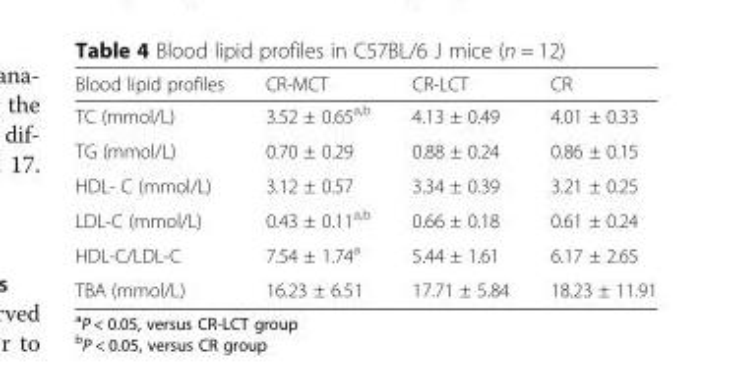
<table><thead><tr><td>Blood lipid profiles</td><td>CR-MCT</td><td>CR-LCT</td><td>CR</td></tr></thead><tbody><tr><td>TC (mmol/L)</td><td>3.52 ± 0.65<sup>a,b</sup></td><td>4.13 ± 0.49</td><td>4.01 ± 0.33</td></tr><tr><td>TG (mmol/L)</td><td>0.70 ± 0.29</td><td>0.88 ± 0.24</td><td>0.86 ± 0.15</td></tr><tr><td>HDL- C (mmol/L)</td><td>3.12 ± 0.57</td><td>3.34 ± 0.39</td><td>3.21 ± 0.25</td></tr><tr><td>LDL-C (mmol/L)</td><td>0.43 ± 0.11<sup>a,b</sup></td><td>0.66 ± 0.18</td><td>0.61 ± 0.24</td></tr><tr><td>HDL-C/LDL-C</td><td>7.54 ± 1.74<sup>a</sup></td><td>5.44 ± 1.61</td><td>6.17 ± 2.65</td></tr><tr><td>TBA (mmol/L)</td><td>16.23 ± 6.51</td><td>17.71 ± 5.84</td><td>18.23 ± 11.91</td></tr></tbody></table>